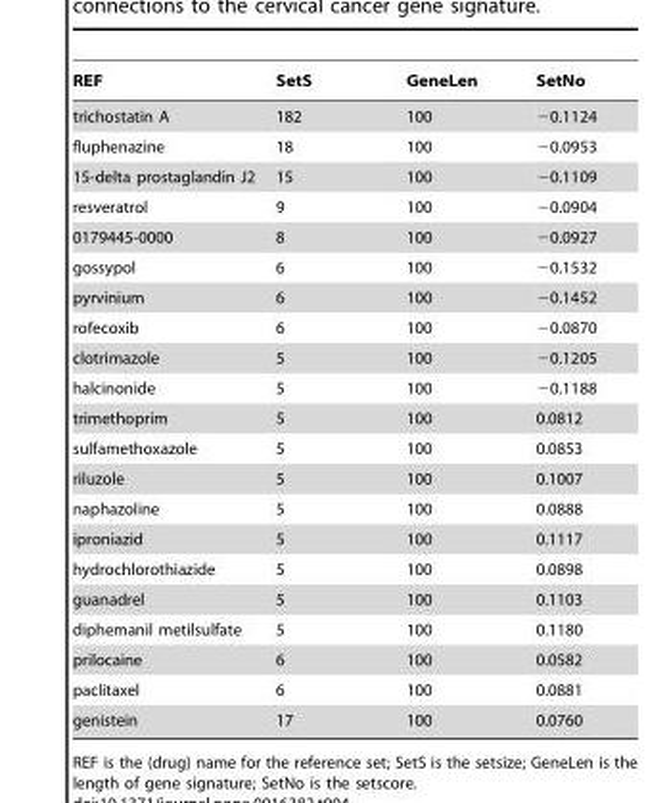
<table><thead><tr><td>REF</td><td>SetS</td><td>GeneLen</td><td>SetNo</td></tr></thead><tbody><tr><td>trichostatin A</td><td>182</td><td>100</td><td>−0.1124</td></tr><tr><td>fluphenazine</td><td>18</td><td>100</td><td>−0.0953</td></tr><tr><td>15-delta prostaglandin J2</td><td>15</td><td>100</td><td>−0.1109</td></tr><tr><td>resveratrol</td><td>9</td><td>100</td><td>−0.0904</td></tr><tr><td>0179445-0000</td><td>8</td><td>100</td><td>−0.0927</td></tr><tr><td>gossypol</td><td>6</td><td>100</td><td>−0.1532</td></tr><tr><td>pyrvinium</td><td>6</td><td>100</td><td>−0.1452</td></tr><tr><td>rofecoxib</td><td>6</td><td>100</td><td>−0.0870</td></tr><tr><td>clotrimazole</td><td>5</td><td>100</td><td>−0.1205</td></tr><tr><td>halcinonide</td><td>5</td><td>100</td><td>−0.1188</td></tr><tr><td>trimethoprim</td><td>5</td><td>100</td><td>0.0812</td></tr><tr><td>sulfamethoxazole</td><td>5</td><td>100</td><td>0.0853</td></tr><tr><td>riluzole</td><td>5</td><td>100</td><td>0.1007</td></tr><tr><td>naphazoline</td><td>5</td><td>100</td><td>0.0888</td></tr><tr><td>iproniazid</td><td>5</td><td>100</td><td>0.1117</td></tr><tr><td>hydrochlorothiazide</td><td>5</td><td>100</td><td>0.0898</td></tr><tr><td>guanadrel</td><td>5</td><td>100</td><td>0.1103</td></tr><tr><td>diphemanil metilsulfate</td><td>5</td><td>100</td><td>0.1180</td></tr><tr><td>prilocaine</td><td>6</td><td>100</td><td>0.0582</td></tr><tr><td>paclitaxel</td><td>6</td><td>100</td><td>0.0881</td></tr><tr><td>genistein</td><td>17</td><td>100</td><td>0.0760</td></tr></tbody></table>